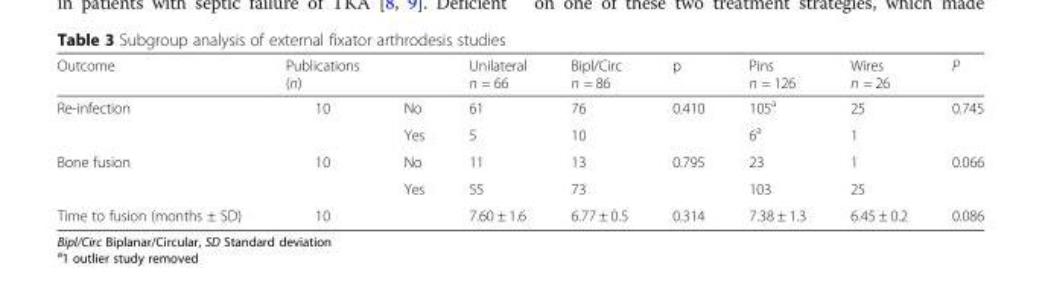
<table><thead><tr><td>Outcome</td><td>Publications (n)</td><td></td><td>Unilateral n = 66</td><td>Bipl/Circ n = 86</td><td>p</td><td>Pins n = 126</td><td>Wires n = 26</td><td>P</td></tr></thead><tbody><tr><td rowspan="2">Re-infection</td><td rowspan="2">10</td><td>No</td><td>61</td><td>76</td><td rowspan="2">0.410</td><td>105<sup>a</sup></td><td>25</td><td rowspan="2">0.745</td></tr><tr><td>Yes</td><td>5</td><td>10</td><td>6<sup>a</sup></td><td>1</td></tr><tr><td rowspan="2">Bone fusion</td><td rowspan="2">10</td><td>No</td><td>11</td><td>13</td><td rowspan="2">0.795</td><td>23</td><td>1</td><td rowspan="2">0.066</td></tr><tr><td>Yes</td><td>55</td><td>73</td><td>103</td><td>25</td></tr><tr><td>Time to fusion (months ± SD)</td><td>10</td><td></td><td>7.60 ± 1.6</td><td>6.77 ± 0.5</td><td>0.314</td><td>7.38 ± 1.3</td><td>6.45 ± 0.2</td><td>0.086</td></tr></tbody></table>